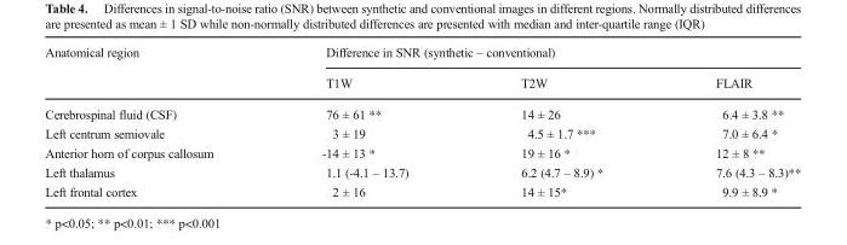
<table><thead><tr><td rowspan="2">Anatomical region</td><td colspan="3">Difference in SNR (synthetic – conventional)</td></tr><tr><td>T1W</td><td>T2W</td><td>FLAIR</td></tr></thead><tbody><tr><td>Cerebrospinal fluid (CSF)</td><td>76 ± 61 **</td><td>14 ± 26</td><td>6.4 ± 3.8 **</td></tr><tr><td>Left centrum semiovale</td><td>3 ± 19</td><td>4.5 ± 1.7 ***</td><td>7.0 ± 6.4 *</td></tr><tr><td>Anterior horn of corpus callosum</td><td>-14 ± 13 *</td><td>19 ± 16 *</td><td>12 ± 8 **</td></tr><tr><td>Left thalamus</td><td>1.1 (-4.1 – 13.7)</td><td>6.2 (4.7 – 8.9) *</td><td>7.6 (4.3 – 8.3)**</td></tr><tr><td>Left frontal cortex</td><td>2 ± 16</td><td>14 ± 15*</td><td>9.9 ± 8.9 *</td></tr></tbody></table>